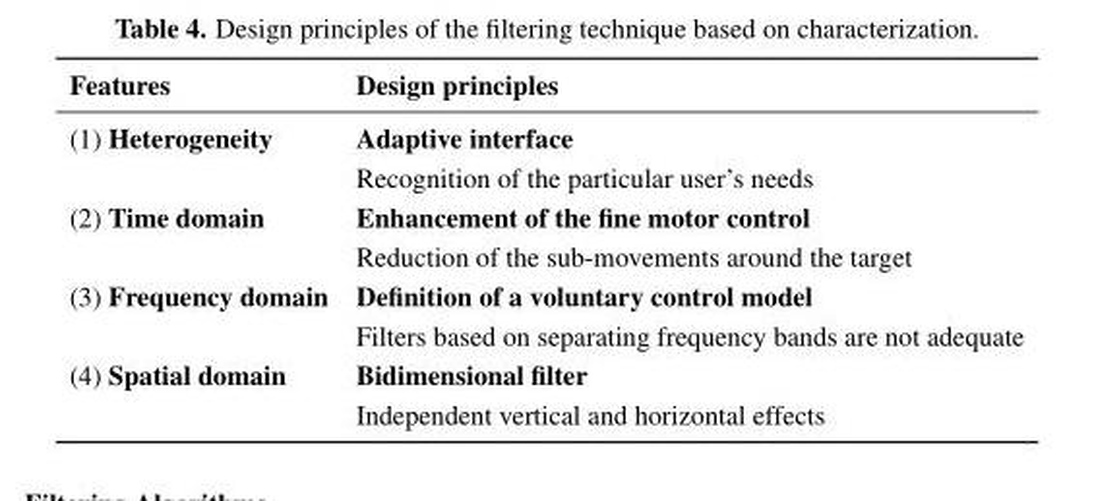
<table><thead><tr><td>Features</td><td>Design principles</td></tr></thead><tbody><tr><td rowspan="2">(1) Heterogeneity</td><td>Adaptive interface</td></tr><tr><td>Recognition of the particular user’s needs</td></tr><tr><td rowspan="2">(2) Time domain</td><td>Enhancement of the fine motor control</td></tr><tr><td>Reduction of the sub-movements around the target</td></tr><tr><td rowspan="2">(3) Frequency domain</td><td>Definition of a voluntary control model</td></tr><tr><td>Filters based on separating frequency bands are not adequate</td></tr><tr><td rowspan="2">(4) Spatial domain</td><td>Bidimensional filter</td></tr><tr><td>Independent vertical and horizontal effects</td></tr></tbody></table>